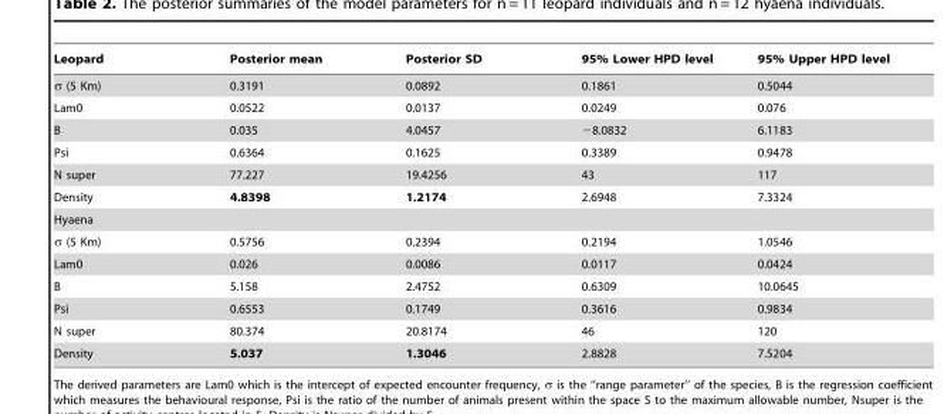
<table><thead><tr><td>Leopard</td><td>Posterior mean</td><td>Posterior SD</td><td>95% Lower HPD level</td><td>95% Upper HPD level</td></tr></thead><tbody><tr><td>σ (5 Km)</td><td>0.3191</td><td>0.0892</td><td>0.1861</td><td>0.5044</td></tr><tr><td>Lam0</td><td>0.0522</td><td>0.0137</td><td>0.0249</td><td>0.076</td></tr><tr><td>B</td><td>0.035</td><td>4.0457</td><td>−8.0832</td><td>6.1183</td></tr><tr><td>Psi</td><td>0.6364</td><td>0.1625</td><td>0.3389</td><td>0.9478</td></tr><tr><td>N super</td><td>77.227</td><td>19.4256</td><td>43</td><td>117</td></tr><tr><td>Density</td><td>4.8398</td><td>1.2174</td><td>2.6948</td><td>7.3324</td></tr><tr><td colspan="5">Hyaena</td></tr><tr><td>σ (5 Km)</td><td>0.5756</td><td>0.2394</td><td>0.2194</td><td>1.0546</td></tr><tr><td>Lam0</td><td>0.026</td><td>0.0086</td><td>0.0117</td><td>0.0424</td></tr><tr><td>B</td><td>5.158</td><td>2.4752</td><td>0.6309</td><td>10.0645</td></tr><tr><td>Psi</td><td>0.6553</td><td>0.1749</td><td>0.3616</td><td>0.9834</td></tr><tr><td>N super</td><td>80.374</td><td>20.8174</td><td>46</td><td>120</td></tr><tr><td>Density</td><td>5.037</td><td>1.3046</td><td>2.8828</td><td>7.5204</td></tr></tbody></table>